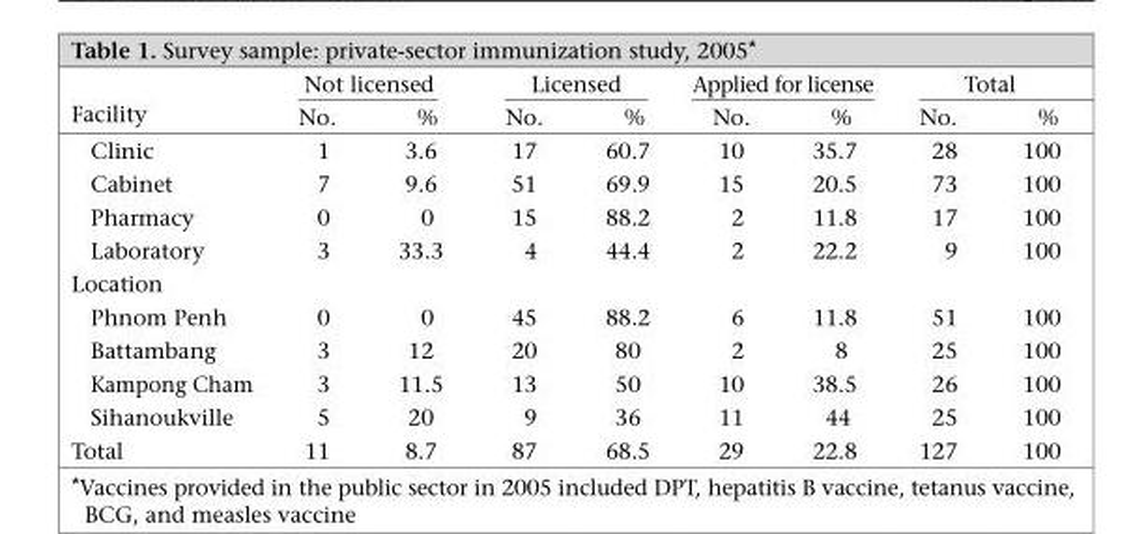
<table><thead><tr><td rowspan="2">Facility</td><td colspan="2">Not licensed</td><td colspan="2">Licensed</td><td colspan="2">Applied for license</td><td colspan="2">Total</td></tr><tr><td>No.</td><td>%</td><td>No.</td><td>%</td><td>No.</td><td>%</td><td>No.</td><td>%</td></tr></thead><tbody><tr><td>Clinic</td><td>1</td><td>3.6</td><td>17</td><td>60.7</td><td>10</td><td>35.7</td><td>28</td><td>100</td></tr><tr><td>Cabinet</td><td>7</td><td>9.6</td><td>51</td><td>69.9</td><td>15</td><td>20.5</td><td>73</td><td>100</td></tr><tr><td>Pharmacy</td><td>0</td><td>0</td><td>15</td><td>88.2</td><td>2</td><td>11.8</td><td>17</td><td>100</td></tr><tr><td>Laboratory</td><td>3</td><td>33.3</td><td>4</td><td>44.4</td><td>2</td><td>22.2</td><td>9</td><td>100</td></tr><tr><td colspan="9">Location</td></tr><tr><td>Phnom Penh</td><td>0</td><td>0</td><td>45</td><td>88.2</td><td>6</td><td>11.8</td><td>51</td><td>100</td></tr><tr><td>Battambang</td><td>3</td><td>12</td><td>20</td><td>80</td><td>2</td><td>8</td><td>25</td><td>100</td></tr><tr><td>Kampong Cham</td><td>3</td><td>11.5</td><td>13</td><td>50</td><td>10</td><td>38.5</td><td>26</td><td>100</td></tr><tr><td>Sihanoukville</td><td>5</td><td>20</td><td>9</td><td>36</td><td>11</td><td>44</td><td>25</td><td>100</td></tr><tr><td>Total</td><td>11</td><td>8.7</td><td>87</td><td>68.5</td><td>29</td><td>22.8</td><td>127</td><td>100</td></tr></tbody></table>